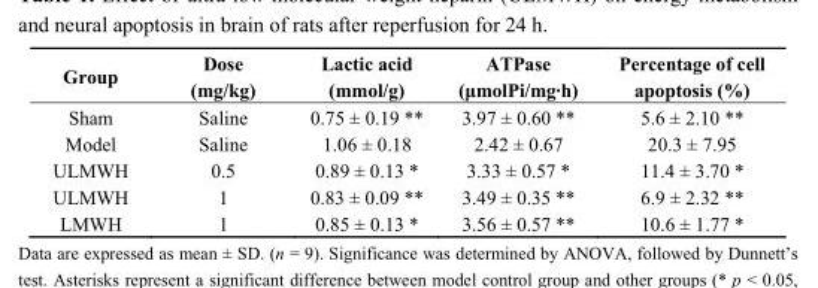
<table><thead><tr><td>Group</td><td>Dose (mg/kg)</td><td>Lactic acid (mmol/g)</td><td>ATPase (μmolPi/mg·h)</td><td>Percentage of cell apoptosis (%)</td></tr></thead><tbody><tr><td>Sham</td><td>Saline</td><td>0.75 ± 0.19 **</td><td>3.97 ± 0.60 **</td><td>5.6 ± 2.10 **</td></tr><tr><td>Model</td><td>Saline</td><td>1.06 ± 0.18</td><td>2.42 ± 0.67</td><td>20.3 ± 7.95</td></tr><tr><td>ULMWH</td><td>0.5</td><td>0.89 ± 0.13 *</td><td>3.33 ± 0.57 *</td><td>11.4 ± 3.70 *</td></tr><tr><td>ULMWH</td><td>1</td><td>0.83 ± 0.09 **</td><td>3.49 ± 0.35 **</td><td>6.9 ± 2.32 **</td></tr><tr><td>LMWH</td><td>1</td><td>0.85 ± 0.13 *</td><td>3.56 ± 0.57 **</td><td>10.6 ± 1.77 *</td></tr></tbody></table>